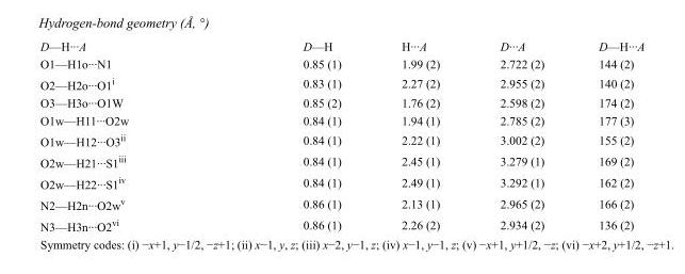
<table><tbody><tr><td>D—H···A</td><td>D—H</td><td>H···A</td><td>D···A</td><td>D—H···A</td></tr><tr><td>O1—H1o···N1</td><td>0.85 (1)</td><td>1.99 (2)</td><td>2.722 (2)</td><td>144 (2)</td></tr><tr><td>O2—H2o···O1<sup>i</sup></td><td>0.83 (1)</td><td>2.27 (2)</td><td>2.955 (2)</td><td>140 (2)</td></tr><tr><td>O3—H3o···O1W</td><td>0.85 (2)</td><td>1.76 (2)</td><td>2.598 (2)</td><td>174 (2)</td></tr><tr><td>O1w—H11···O2w</td><td>0.84 (1)</td><td>1.94 (1)</td><td>2.785 (2)</td><td>177 (3)</td></tr><tr><td>O1w—H12···O3<sup>ii</sup></td><td>0.84 (1)</td><td>2.22 (1)</td><td>3.002 (2)</td><td>155 (2)</td></tr><tr><td>O2w—H21···S1<sup>iii</sup></td><td>0.84 (1)</td><td>2.45 (1)</td><td>3.279 (1)</td><td>169 (2)</td></tr><tr><td>O2w—H22···S1<sup>iv</sup></td><td>0.84 (1)</td><td>2.49 (1)</td><td>3.292 (1)</td><td>162 (2)</td></tr><tr><td>N2—H2n···O2w<sup>v</sup></td><td>0.86 (1)</td><td>2.13 (1)</td><td>2.965 (2)</td><td>166 (2)</td></tr><tr><td>N3—H3n···O2<sup>vi</sup></td><td>0.86 (1)</td><td>2.26 (2)</td><td>2.934 (2)</td><td>136 (2)</td></tr></tbody></table>